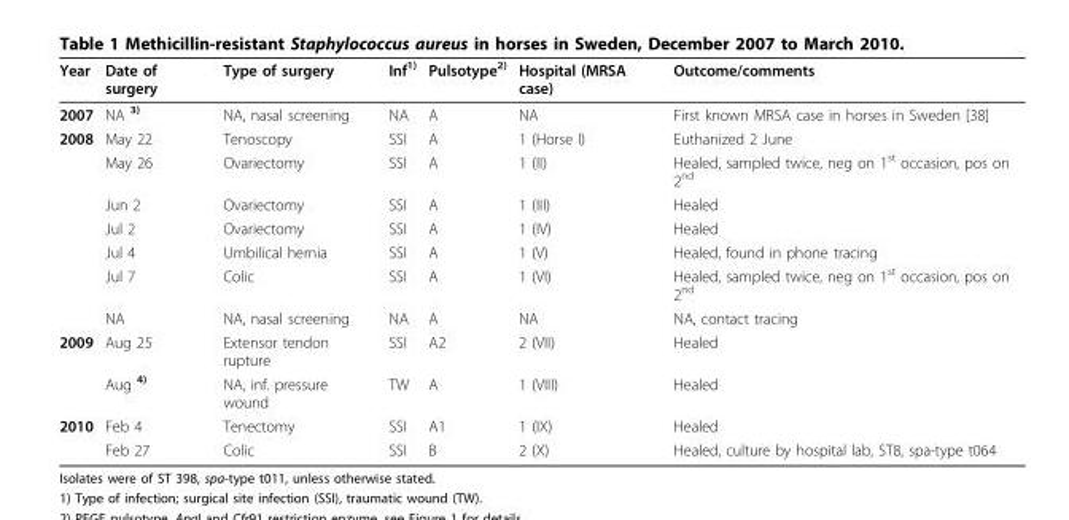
<table><thead><tr><td>Year</td><td>Date of surgery</td><td>Type of surgery</td><td>Inf<sup>1)</sup></td><td>Pulsotype<sup>2)</sup></td><td>Hospital (MRSA case)</td><td>Outcome/comments</td></tr></thead><tbody><tr><td>2007</td><td>NA <sup>3)</sup></td><td>NA, nasal screening</td><td>NA</td><td>A</td><td>NA</td><td>First known MRSA case in horses in Sweden [38]</td></tr><tr><td rowspan="7">2008</td><td>May 22</td><td>Tenoscopy</td><td>SSI</td><td>A</td><td>1 (Horse I)</td><td>Euthanized 2 June</td></tr><tr><td>May 26</td><td>Ovariectomy</td><td>SSI</td><td>A</td><td>1 (II)</td><td>Healed, sampled twice, neg on 1<sup>st</sup> occasion, pos on 2<sup>nd</sup></td></tr><tr><td>Jun 2</td><td>Ovariectomy</td><td>SSI</td><td>A</td><td>1 (III)</td><td>Healed</td></tr><tr><td>Jul 2</td><td>Ovariectomy</td><td>SSI</td><td>A</td><td>1 (IV)</td><td>Healed</td></tr><tr><td>Jul 4</td><td>Umbilical hernia</td><td>SSI</td><td>A</td><td>1 (V)</td><td>Healed, found in phone tracing</td></tr><tr><td>Jul 7</td><td>Colic</td><td>SSI</td><td>A</td><td>1 (VI)</td><td>Healed, sampled twice, neg on 1<sup>st</sup> occasion, pos on 2<sup>nd</sup></td></tr><tr><td>NA</td><td>NA, nasal screening</td><td>NA</td><td>A</td><td>NA</td><td>NA, contact tracing</td></tr><tr><td rowspan="2">2009</td><td>Aug 25</td><td>Extensor tendon rupture</td><td>SSI</td><td>A2</td><td>2 (VII)</td><td>Healed</td></tr><tr><td>Aug <sup>4)</sup></td><td>NA, inf. pressure wound</td><td>TW</td><td>A</td><td>1 (VIII)</td><td>Healed</td></tr><tr><td rowspan="2">2010</td><td>Feb 4</td><td>Tenectomy</td><td>SSI</td><td>A1</td><td>1 (IX)</td><td>Healed</td></tr><tr><td>Feb 27</td><td>Colic</td><td>SSI</td><td>B</td><td>2 (X)</td><td>Healed, culture by hospital lab, ST8, spa-type t064</td></tr></tbody></table>